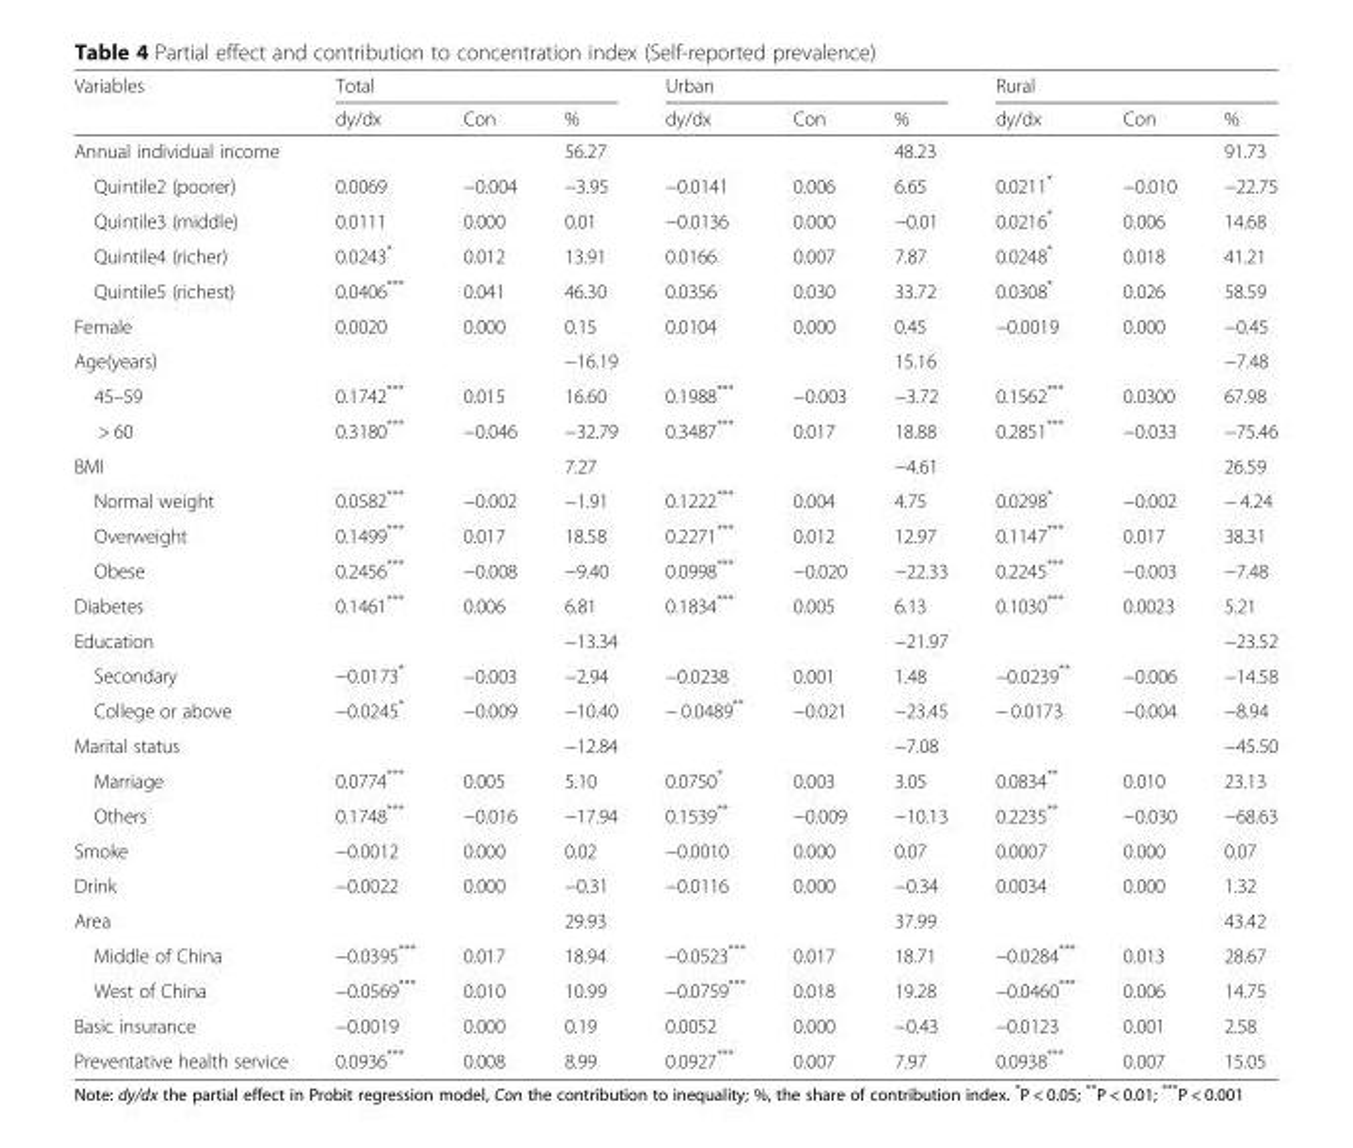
<table><thead><tr><td rowspan="2">Variables</td><td colspan="3">Total</td><td colspan="3">Urban</td><td colspan="3">Rural</td></tr><tr><td>dy/dx</td><td>Con</td><td>%</td><td>dy/dx</td><td>Con</td><td>%</td><td>dy/dx</td><td>Con</td><td>%</td></tr></thead><tbody><tr><td>Annual individual income</td><td></td><td></td><td>56.27</td><td></td><td></td><td>48.23</td><td></td><td></td><td>91.73</td></tr><tr><td>Quintile2 (poorer)</td><td>0.0069</td><td>−0.004</td><td>−3.95</td><td>−0.0141</td><td>0.006</td><td>6.65</td><td>0.0211*</td><td>−0.010</td><td>−22.75</td></tr><tr><td>Quintile3 (middle)</td><td>0.0111</td><td>0.000</td><td>0.01</td><td>−0.0136</td><td>0.000</td><td>−0.01</td><td>0.0216*</td><td>0.006</td><td>14.68</td></tr><tr><td>Quintile4 (richer)</td><td>0.0243*</td><td>0.012</td><td>13.91</td><td>0.0166</td><td>0.007</td><td>7.87</td><td>0.0248*</td><td>0.018</td><td>41.21</td></tr><tr><td>Quintile5 (richest)</td><td>0.0406***</td><td>0.041</td><td>46.30</td><td>0.0356</td><td>0.030</td><td>33.72</td><td>0.0308*</td><td>0.026</td><td>58.59</td></tr><tr><td>Female</td><td>0.0020</td><td>0.000</td><td>0.15</td><td>0.0104</td><td>0.000</td><td>0.45</td><td>−0.0019</td><td>0.000</td><td>−0.45</td></tr><tr><td>Age(years)</td><td></td><td></td><td>−16.19</td><td></td><td></td><td>15.16</td><td></td><td></td><td>−7.48</td></tr><tr><td>45–59</td><td>0.1742***</td><td>0.015</td><td>16.60</td><td>0.1988***</td><td>−0.003</td><td>−3.72</td><td>0.1562***</td><td>0.0300</td><td>67.98</td></tr><tr><td>&gt; 60</td><td>0.3180***</td><td>−0.046</td><td>−32.79</td><td>0.3487***</td><td>0.017</td><td>18.88</td><td>0.2851***</td><td>−0.033</td><td>−75.46</td></tr><tr><td>BMI</td><td></td><td></td><td>7.27</td><td></td><td></td><td>−4.61</td><td></td><td></td><td>26.59</td></tr><tr><td>Normal weight</td><td>0.0582***</td><td>−0.002</td><td>−1.91</td><td>0.1222***</td><td>0.004</td><td>4.75</td><td>0.0298*</td><td>−0.002</td><td>− 4.24</td></tr><tr><td>Overweight</td><td>0.1499***</td><td>0.017</td><td>18.58</td><td>0.2271***</td><td>0.012</td><td>12.97</td><td>0.1147***</td><td>0.017</td><td>38.31</td></tr><tr><td>Obese</td><td>0.2456***</td><td>−0.008</td><td>−9.40</td><td>0.0998***</td><td>−0.020</td><td>−22.33</td><td>0.2245***</td><td>−0.003</td><td>−7.48</td></tr><tr><td>Diabetes</td><td>0.1461***</td><td>0.006</td><td>6.81</td><td>0.1834***</td><td>0.005</td><td>6.13</td><td>0.1030***</td><td>0.0023</td><td>5.21</td></tr><tr><td>Education</td><td></td><td></td><td>−13.34</td><td></td><td></td><td>−21.97</td><td></td><td></td><td>−23.52</td></tr><tr><td>Secondary</td><td>−0.0173*</td><td>−0.003</td><td>−2.94</td><td>−0.0238</td><td>0.001</td><td>1.48</td><td>−0.0239**</td><td>−0.006</td><td>−14.58</td></tr><tr><td>College or above</td><td>−0.0245*</td><td>−0.009</td><td>−10.40</td><td>− 0.0489**</td><td>−0.021</td><td>−23.45</td><td>− 0.0173</td><td>−0.004</td><td>−8.94</td></tr><tr><td>Marital status</td><td></td><td></td><td>−12.84</td><td></td><td></td><td>−7.08</td><td></td><td></td><td>−45.50</td></tr><tr><td>Marriage</td><td>0.0774***</td><td>0.005</td><td>5.10</td><td>0.0750*</td><td>0.003</td><td>3.05</td><td>0.0834**</td><td>0.010</td><td>23.13</td></tr><tr><td>Others</td><td>0.1748***</td><td>−0.016</td><td>−17.94</td><td>0.1539**</td><td>−0.009</td><td>−10.13</td><td>0.2235**</td><td>−0.030</td><td>−68.63</td></tr><tr><td>Smoke</td><td>−0.0012</td><td>0.000</td><td>0.02</td><td>−0.0010</td><td>0.000</td><td>0.07</td><td>0.0007</td><td>0.000</td><td>0.07</td></tr><tr><td>Drink</td><td>−0.0022</td><td>0.000</td><td>−0.31</td><td>−0.0116</td><td>0.000</td><td>−0.34</td><td>0.0034</td><td>0.000</td><td>1.32</td></tr><tr><td>Area</td><td></td><td></td><td>29.93</td><td></td><td></td><td>37.99</td><td></td><td></td><td>43.42</td></tr><tr><td>Middle of China</td><td>−0.0395***</td><td>0.017</td><td>18.94</td><td>−0.0523***</td><td>0.017</td><td>18.71</td><td>−0.0284***</td><td>0.013</td><td>28.67</td></tr><tr><td>West of China</td><td>−0.0569***</td><td>0.010</td><td>10.99</td><td>−0.0759***</td><td>0.018</td><td>19.28</td><td>−0.0460***</td><td>0.006</td><td>14.75</td></tr><tr><td>Basic insurance</td><td>−0.0019</td><td>0.000</td><td>0.19</td><td>0.0052</td><td>0.000</td><td>−0.43</td><td>−0.0123</td><td>0.001</td><td>2.58</td></tr><tr><td>Preventative health service</td><td>0.0936***</td><td>0.008</td><td>8.99</td><td>0.0927***</td><td>0.007</td><td>7.97</td><td>0.0938***</td><td>0.007</td><td>15.05</td></tr></tbody></table>